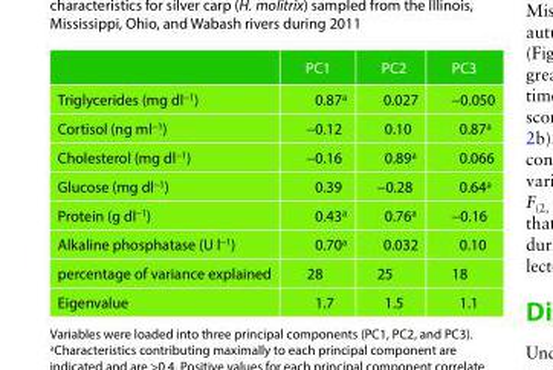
<table><thead><tr><td></td><td>PC1</td><td>PC2</td><td>PC3</td></tr></thead><tbody><tr><td>Triglycerides (mg dl<sup>−1</sup>)</td><td>0.87<sup>a</sup></td><td>0.027</td><td>−0.050</td></tr><tr><td>Cortisol (ng ml<sup>−1</sup>)</td><td>−0.12</td><td>0.10</td><td>0.87<sup>a</sup></td></tr><tr><td>Cholesterol (mg dl<sup>−1</sup>)</td><td>−0.16</td><td>0.89<sup>a</sup></td><td>0.066</td></tr><tr><td>Glucose (mg dl<sup>−1</sup>)</td><td>0.39</td><td>−0.28</td><td>0.64<sup>a</sup></td></tr><tr><td>Protein (g dl<sup>−1</sup>)</td><td>0.43<sup>a</sup></td><td>0.76<sup>a</sup></td><td>−0.16</td></tr><tr><td>Alkaline phosphatase (U l<sup>−1</sup>)</td><td>0.70<sup>a</sup></td><td>0.032</td><td>0.10</td></tr><tr><td>percentage of variance explained</td><td>28</td><td>25</td><td>18</td></tr><tr><td>Eigenvalue</td><td>1.7</td><td>1.5</td><td>1.1</td></tr></tbody></table>